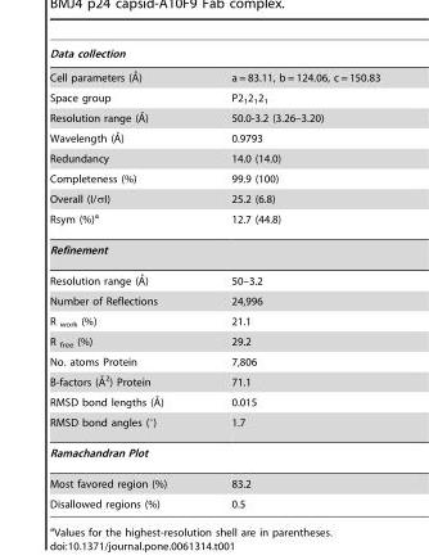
<table><thead><tr><td colspan="2">Data collection</td></tr><tr><td>Cell parameters (A˚)</td><td>a = 83.11, b = 124.06, c = 150.83</td></tr></thead><tbody><tr><td>Space group</td><td>P2<sub>1</sub>2<sub>1</sub>2<sub>1</sub></td></tr><tr><td>Resolution range (A˚)</td><td>50.0-3.2 (3.26–3.20)</td></tr><tr><td>Wavelength (A˚)</td><td>0.9793</td></tr><tr><td>Redundancy</td><td>14.0 (14.0)</td></tr><tr><td>Completeness (%)</td><td>99.9 (100)</td></tr><tr><td>Overall (I/σI)</td><td>25.2 (6.8)</td></tr><tr><td>Rsym (%)<sup>a</sup></td><td>12.7 (44.8)</td></tr><tr><td colspan="2">Refinement</td></tr><tr><td>Resolution range (A˚)</td><td>50–3.2</td></tr><tr><td>Number of Reflections</td><td>24,996</td></tr><tr><td>R <sub>work</sub> (%)</td><td>21.1</td></tr><tr><td>R <sub>free</sub> (%)</td><td>29.2</td></tr><tr><td>No. atoms Protein</td><td>7,806</td></tr><tr><td>B-factors (A˚ 2) Protein</td><td>71.1</td></tr><tr><td>RMSD bond lengths (A˚)</td><td>0.015</td></tr><tr><td>RMSD bond angles (°)</td><td>1.7</td></tr><tr><td colspan="2">Ramachandran Plot</td></tr><tr><td>Most favored region (%)</td><td>83.2</td></tr><tr><td>Disallowed regions (%)</td><td>0.5</td></tr></tbody></table>